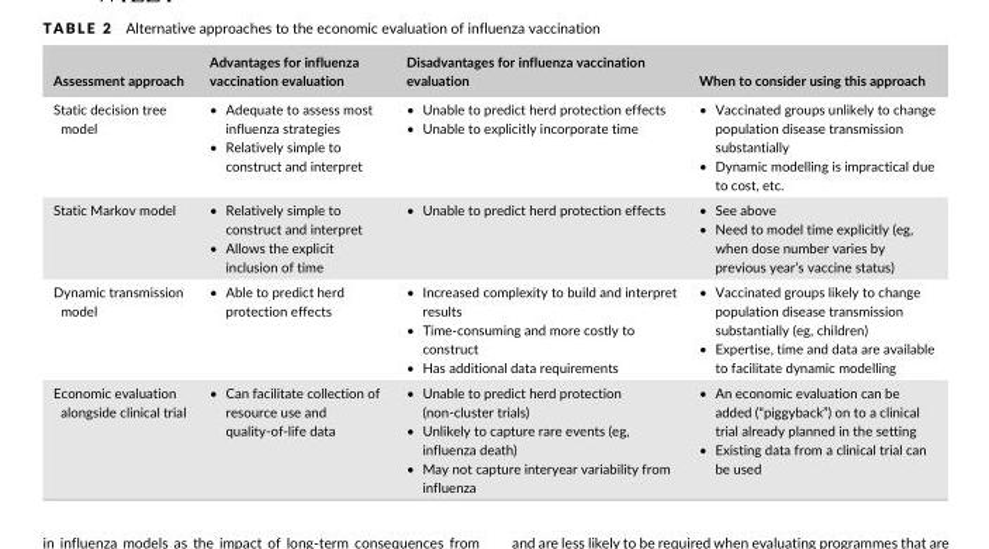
<table><thead><tr><td>Assessment approach</td><td>Advantages for influenza vaccination evaluation</td><td>Disadvantages for influenza vaccination evaluation</td><td>When to consider using this approach</td></tr></thead><tbody><tr><td>Static decision tree model</td><td>• Adequate to assess most influenza strategies • Relatively simple to construct and interpret</td><td>• Unable to predict herd protection effects • Unable to explicitly incorporate time</td><td>• Vaccinated groups unlikely to change population disease transmission substantially • Dynamic modelling is impractical due to cost, etc.</td></tr><tr><td>Static Markov model</td><td>• Relatively simple to construct and interpret • Allows the explicit inclusion of time</td><td>• Unable to predict herd protection effects</td><td>• See above • Need to model time explicitly (eg, when dose number varies by previous year’s vaccine status)</td></tr><tr><td>Dynamic transmission model</td><td>• Able to predict herd protection effects</td><td>• Increased complexity to build and interpret results • Time-consuming and more costly to construct • Has additional data requirements</td><td>• Vaccinated groups likely to change population disease transmission substantially (eg, children) • Expertise, time and data are available to facilitate dynamic modelling</td></tr><tr><td>Economic evaluation alongside clinical trial</td><td>• Can facilitate collection of resource use and quality-of-life data</td><td>• Unable to predict herd protection (non-cluster trials) • Unlikely to capture rare events (eg, influenza death) • May not capture interyear variability from influenza</td><td>• An economic evaluation can be added (“piggyback”) on to a clinical trial already planned in the setting • Existing data from a clinical trial can be used</td></tr></tbody></table>